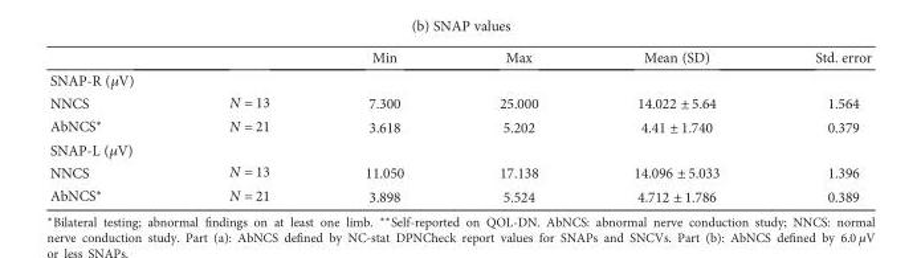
<table><thead><tr><td></td><td></td><td>Min</td><td>Max</td><td>Mean (SD)</td><td>Std. error</td></tr></thead><tbody><tr><td colspan="6">SNAP-R (μV)</td></tr><tr><td>NNCS</td><td>N = 13</td><td>7.300</td><td>25.000</td><td>14.022 ± 5.64</td><td>1.564</td></tr><tr><td>AbNCS∗</td><td>N = 21</td><td>3.618</td><td>5.202</td><td>4.41 ± 1.740</td><td>0.379</td></tr><tr><td colspan="6">SNAP-L (μV)</td></tr><tr><td>NNCS</td><td>N = 13</td><td>11.050</td><td>17.138</td><td>14.096 ± 5.033</td><td>1.396</td></tr><tr><td>AbNCS∗</td><td>N = 21</td><td>3.898</td><td>5.524</td><td>4.712 ± 1.786</td><td>0.389</td></tr></tbody></table>